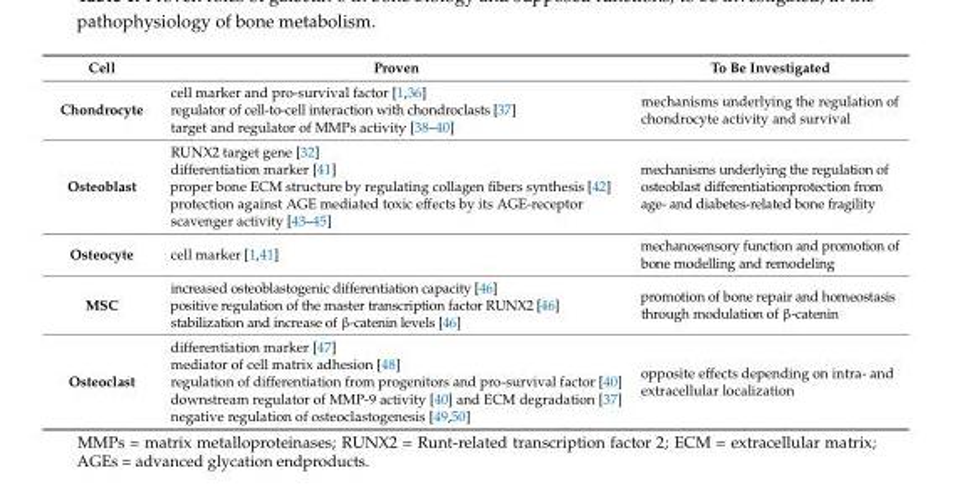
<table><thead><tr><td>Cell</td><td>Proven</td><td>To Be Investigated</td></tr></thead><tbody><tr><td>Chondrocyte</td><td>cell marker and pro-survival factor [1,36] regulator of cell-to-cell interaction with chondroclasts [37] target and regulator of MMPs activity [38–40]</td><td>mechanisms underlying the regulation of chondrocyte activity and survival</td></tr><tr><td>Osteoblast</td><td>RUNX2 target gene [32] differentiation marker [41] proper bone ECM structure by regulating collagen fibers synthesis [42] protection against AGE mediated toxic effects by its AGE-receptor scavenger activity [43–45]</td><td>mechanisms underlying the regulation of osteoblast differentiationprotection from age- and diabetes-related bone fragility</td></tr><tr><td>Osteocyte</td><td>cell marker [1,41]</td><td>mechanosensory function and promotion of bone modelling and remodeling</td></tr><tr><td>MSC</td><td>increased osteoblastogenic differentiation capacity [46] positive regulation of the master transcription factor RUNX2 [46] stabilization and increase of β-catenin levels [46]</td><td>promotion of bone repair and homeostasis through modulation of β-catenin</td></tr><tr><td>Osteoclast</td><td>differentiation marker [47] mediator of cell matrix adhesion [48] regulation of differentiation from progenitors and pro-survival factor [40] downstream regulator of MMP-9 activity [40] and ECM degradation [37] negative regulation of osteoclastogenesis [49,50]</td><td>opposite effects depending on intra- and extracellular localization</td></tr></tbody></table>